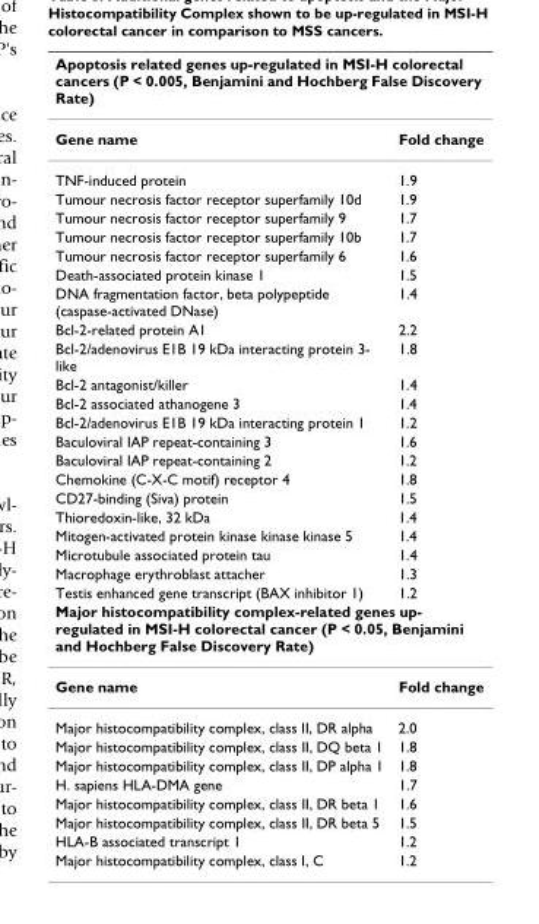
<table><thead><tr><td colspan="2">Apoptosis related genes up-regulated in MSI-H colorectal cancers (P &lt; 0.005, Benjamini and Hochberg False Discovery Rate)</td></tr><tr><td>Gene name</td><td>Fold change</td></tr></thead><tbody><tr><td>TNF-induced protein</td><td>1.9</td></tr><tr><td>Tumour necrosis factor receptor superfamily 10d</td><td>1.9</td></tr><tr><td>Tumour necrosis factor receptor superfamily 9</td><td>1.7</td></tr><tr><td>Tumour necrosis factor receptor superfamily 10b</td><td>1.7</td></tr><tr><td>Tumour necrosis factor receptor superfamily 6</td><td>1.6</td></tr><tr><td>Death-associated protein kinase 1</td><td>1.5</td></tr><tr><td>DNA fragmentation factor, beta polypeptide (caspase-activated DNase)</td><td>1.4</td></tr><tr><td>Bcl-2-related protein A1</td><td>2.2</td></tr><tr><td>Bcl-2/adenovirus E1B 19 kDa interacting protein 3- like</td><td>1.8</td></tr><tr><td>Bcl-2 antagonist/killer</td><td>1.4</td></tr><tr><td>Bcl-2 associated athanogene 3</td><td>1.4</td></tr><tr><td>Bcl-2/adenovirus E1B 19 kDa interacting protein 1</td><td>1.2</td></tr><tr><td>Baculoviral IAP repeat-containing 3</td><td>1.6</td></tr><tr><td>Baculoviral IAP repeat-containing 2</td><td>1.2</td></tr><tr><td>Chemokine (C-X-C motif) receptor 4</td><td>1.8</td></tr><tr><td>CD27-binding (Siva) protein</td><td>1.5</td></tr><tr><td>Thioredoxin-like, 32 kDa</td><td>1.4</td></tr><tr><td>Mitogen-activated protein kinase kinase kinase 5</td><td>1.4</td></tr><tr><td>Microtubule associated protein tau</td><td>1.4</td></tr><tr><td>Macrophage erythroblast attacher</td><td>1.3</td></tr><tr><td>Testis enhanced gene transcript (BAX inhibitor 1)</td><td>1.2</td></tr><tr><td colspan="2">Major histocompatibility complex-related genes up- regulated in MSI-H colorectal cancer (P &lt; 0.05, Benjamini and Hochberg False Discovery Rate)</td></tr><tr><td>Gene name</td><td>Fold change</td></tr><tr><td>Major histocompatibility complex, class II, DR alpha</td><td>2.0</td></tr><tr><td>Major histocompatibility complex, class II, DQ beta 1</td><td>1.8</td></tr><tr><td>Major histocompatibility complex, class II, DP alpha 1</td><td>1.8</td></tr><tr><td>H. sapiens HLA-DMA gene</td><td>1.7</td></tr><tr><td>Major histocompatibility complex, class II, DR beta 1</td><td>1.6</td></tr><tr><td>Major histocompatibility complex, class II, DR beta 5</td><td>1.5</td></tr><tr><td>HLA-B associated transcript 1</td><td>1.2</td></tr><tr><td>Major histocompatibility complex, class I, C</td><td>1.2</td></tr></tbody></table>